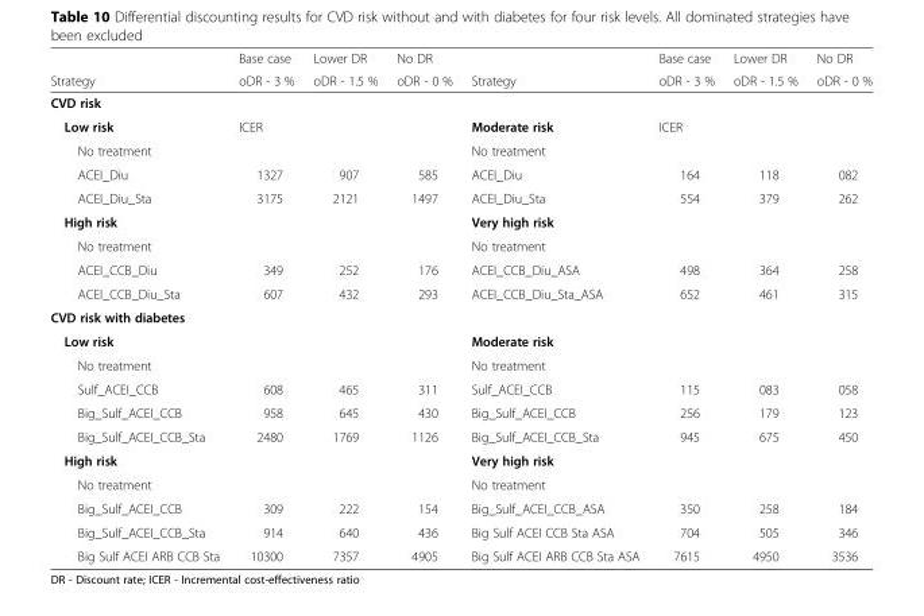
<table><thead><tr><td rowspan="2">Strategy</td><td rowspan="2">Base case oDR - 3 %</td><td rowspan="2">Lower DR oDR - 1.5 %</td><td rowspan="2">No DR oDR - 0 %</td><td rowspan="2">Strategy</td><td rowspan="2">Base case oDR - 3 %</td><td rowspan="2">Lower DR oDR - 1.5 %</td><td rowspan="2">No DR oDR - 0 %</td></tr><tr></tr></thead><tbody><tr><td colspan="8">CVD risk</td></tr><tr><td>Low risk</td><td colspan="3">ICER</td><td>Moderate risk</td><td colspan="3">ICER</td></tr><tr><td>No treatment</td><td></td><td></td><td></td><td>No treatment</td><td></td><td></td><td></td></tr><tr><td>ACEI_Diu</td><td>1327</td><td>907</td><td>585</td><td>ACEI_Diu</td><td>164</td><td>118</td><td>082</td></tr><tr><td>ACEI_Diu_Sta</td><td>3175</td><td>2121</td><td>1497</td><td>ACEI_Diu_Sta</td><td>554</td><td>379</td><td>262</td></tr><tr><td>High risk</td><td></td><td></td><td></td><td>Very high risk</td><td></td><td></td><td></td></tr><tr><td>No treatment</td><td></td><td></td><td></td><td>No treatment</td><td></td><td></td><td></td></tr><tr><td>ACEI_CCB_Diu</td><td>349</td><td>252</td><td>176</td><td>ACEI_CCB_Diu_ASA</td><td>498</td><td>364</td><td>258</td></tr><tr><td>ACEI_CCB_Diu_Sta</td><td>607</td><td>432</td><td>293</td><td>ACEI_CCB_Diu_Sta_ASA</td><td>652</td><td>461</td><td>315</td></tr><tr><td colspan="8">CVD risk with diabetes</td></tr><tr><td>Low risk</td><td></td><td></td><td></td><td>Moderate risk</td><td></td><td></td><td></td></tr><tr><td>No treatment</td><td></td><td></td><td></td><td>No treatment</td><td></td><td></td><td></td></tr><tr><td>Sulf_ACEI_CCB</td><td>608</td><td>465</td><td>311</td><td>Sulf_ACEI_CCB</td><td>115</td><td>083</td><td>058</td></tr><tr><td>Big_Sulf_ACEI_CCB</td><td>958</td><td>645</td><td>430</td><td>Big_Sulf_ACEI_CCB</td><td>256</td><td>179</td><td>123</td></tr><tr><td>Big_Sulf_ACEI_CCB_Sta</td><td>2480</td><td>1769</td><td>1126</td><td>Big_Sulf_ACEI_CCB_Sta</td><td>945</td><td>675</td><td>450</td></tr><tr><td>High risk</td><td></td><td></td><td></td><td>Very high risk</td><td></td><td></td><td></td></tr><tr><td>No treatment</td><td></td><td></td><td></td><td>No treatment</td><td></td><td></td><td></td></tr><tr><td>Big_Sulf_ACEI_CCB</td><td>309</td><td>222</td><td>154</td><td>Big_Sulf_ACEI_CCB_ASA</td><td>350</td><td>258</td><td>184</td></tr><tr><td>Big_Sulf_ACEI_CCB_Sta</td><td>914</td><td>640</td><td>436</td><td>Big Sulf ACEI CCB Sta ASA</td><td>704</td><td>505</td><td>346</td></tr><tr><td>Big Sulf ACEI ARB CCB Sta</td><td>10300</td><td>7357</td><td>4905</td><td>Big Sulf ACEI ARB CCB Sta ASA</td><td>7615</td><td>4950</td><td>3536</td></tr></tbody></table>